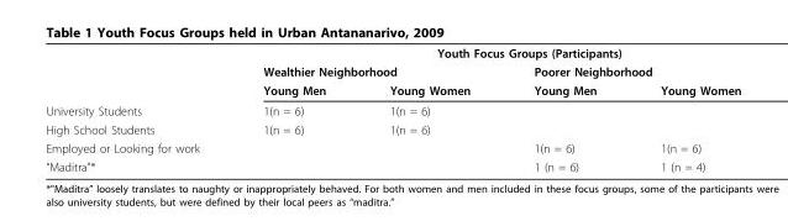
<table><thead><tr><td rowspan="3"></td><td colspan="4">Youth Focus Groups (Participants)</td></tr><tr><td colspan="2">Wealthier Neighborhood</td><td colspan="2">Poorer Neighborhood</td></tr><tr><td>Young Men</td><td>Young Women</td><td>Young Men</td><td>Young Women</td></tr></thead><tbody><tr><td>University Students</td><td>1(n = 6)</td><td>1(n = 6)</td><td></td><td></td></tr><tr><td>High School Students</td><td>1(n = 6)</td><td>1(n = 6)</td><td></td><td></td></tr><tr><td>Employed or Looking for work</td><td></td><td></td><td>1(n = 6)</td><td>1(n = 6)</td></tr><tr><td>“Maditra&quot;*</td><td></td><td></td><td>1 (n = 6)</td><td>1 (n = 4)</td></tr></tbody></table>